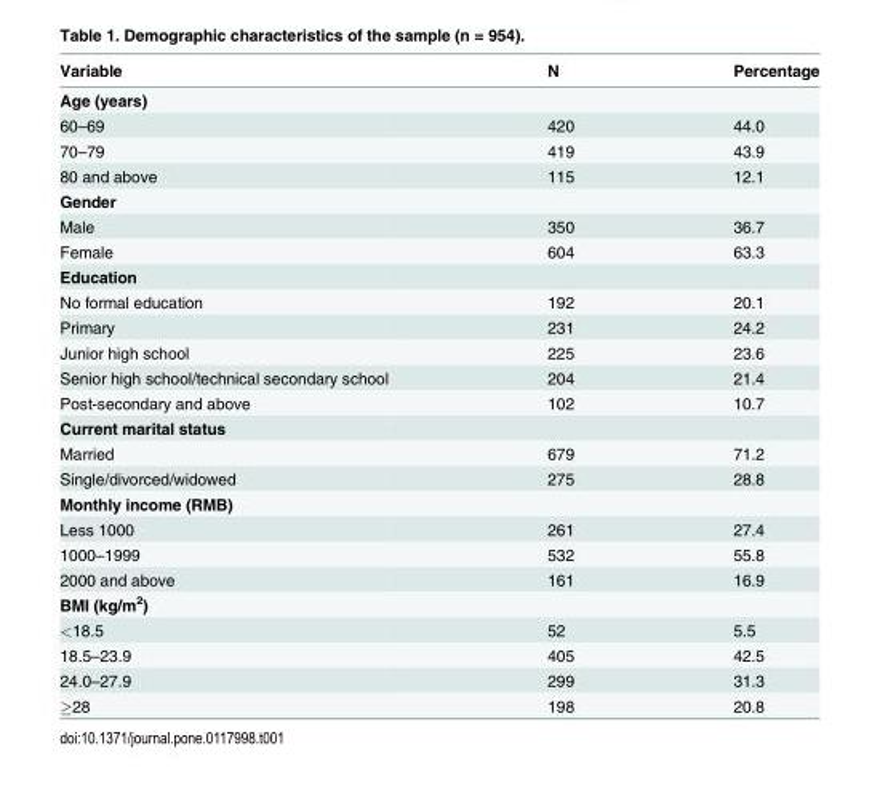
<table><thead><tr><td>Variable</td><td>N</td><td>Percentage</td></tr></thead><tbody><tr><td colspan="3">Age (years)</td></tr><tr><td>60–69</td><td>420</td><td>44.0</td></tr><tr><td>70–79</td><td>419</td><td>43.9</td></tr><tr><td>80 and above</td><td>115</td><td>12.1</td></tr><tr><td colspan="3">Gender</td></tr><tr><td>Male</td><td>350</td><td>36.7</td></tr><tr><td>Female</td><td>604</td><td>63.3</td></tr><tr><td colspan="3">Education</td></tr><tr><td>No formal education</td><td>192</td><td>20.1</td></tr><tr><td>Primary</td><td>231</td><td>24.2</td></tr><tr><td>Junior high school</td><td>225</td><td>23.6</td></tr><tr><td>Senior high school/technical secondary school</td><td>204</td><td>21.4</td></tr><tr><td>Post-secondary and above</td><td>102</td><td>10.7</td></tr><tr><td colspan="3">Current marital status</td></tr><tr><td>Married</td><td>679</td><td>71.2</td></tr><tr><td>Single/divorced/widowed</td><td>275</td><td>28.8</td></tr><tr><td colspan="3">Monthly income (RMB)</td></tr><tr><td>Less 1000</td><td>261</td><td>27.4</td></tr><tr><td>1000–1999</td><td>532</td><td>55.8</td></tr><tr><td>2000 and above</td><td>161</td><td>16.9</td></tr><tr><td colspan="3">BMI (kg/m<sup>2</sup>)</td></tr><tr><td>&lt;18.5</td><td>52</td><td>5.5</td></tr><tr><td>18.5–23.9</td><td>405</td><td>42.5</td></tr><tr><td>24.0–27.9</td><td>299</td><td>31.3</td></tr><tr><td>≥28</td><td>198</td><td>20.8</td></tr></tbody></table>